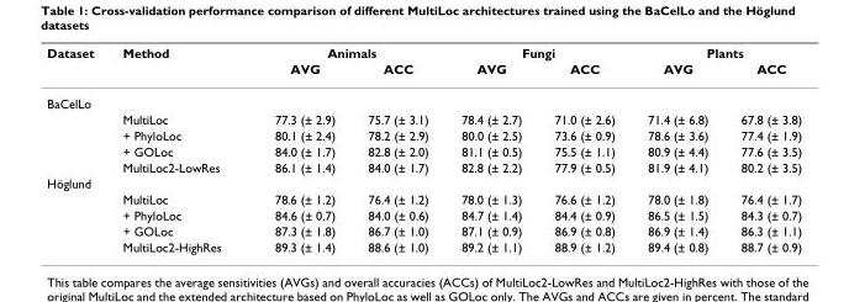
<table><thead><tr><td rowspan="2">Dataset</td><td rowspan="2">Method</td><td colspan="2">Animals</td><td colspan="2">Fungi</td><td colspan="2">Plants</td></tr><tr><td>AVG</td><td>ACC</td><td>AVG</td><td>ACC</td><td>AVG</td><td>ACC</td></tr></thead><tbody><tr><td colspan="8">BaCelLo</td></tr><tr><td></td><td>MultiLoc</td><td>77.3 (± 2.9)</td><td>75.7 (± 3.1)</td><td>78.4 (± 2.7)</td><td>71.0 (± 2.6)</td><td>71.4 (± 6.8)</td><td>67.8 (± 3.8)</td></tr><tr><td></td><td>+ PhyloLoc</td><td>80.1 (± 2.4)</td><td>78.2 (± 2.9)</td><td>80.0 (± 2.5)</td><td>73.6 (± 0.9)</td><td>78.6 (± 3.6)</td><td>77.4 (± 1.9)</td></tr><tr><td></td><td>+ GOLoc</td><td>84.0 (± 1.7)</td><td>82.8 (± 2.0)</td><td>81.1 (± 0.5)</td><td>75.5 (± 1.1)</td><td>80.9 (± 4.4)</td><td>77.6 (± 3.5)</td></tr><tr><td></td><td>MultiLoc2-LowRes</td><td>86.1 (± 1.4)</td><td>84.0 (± 1.7)</td><td>82.8 (± 2.2)</td><td>77.9 (± 0.5)</td><td>81.9 (± 4.1)</td><td>80.2 (± 3.5)</td></tr><tr><td colspan="8">Höglund</td></tr><tr><td></td><td>MultiLoc</td><td>78.6 (± 1.2)</td><td>76.4 (± 1.2)</td><td>78.0 (± 1.3)</td><td>76.6 (± 1.2)</td><td>78.0 (± 1.8)</td><td>76.4 (± 1.7)</td></tr><tr><td></td><td>+ PhyloLoc</td><td>84.6 (± 0.7)</td><td>84.0 (± 0.6)</td><td>84.7 (± 1.4)</td><td>84.4 (± 0.9)</td><td>86.5 (± 1.5)</td><td>84.3 (± 0.7)</td></tr><tr><td></td><td>+ GOLoc</td><td>87.3 (± 1.8)</td><td>86.7 (± 1.0)</td><td>87.1 (± 0.9)</td><td>86.9 (± 0.8)</td><td>86.9 (± 1.4)</td><td>86.3 (± 1.1)</td></tr><tr><td></td><td>MultiLoc2-HighRes</td><td>89.3 (± 1.4)</td><td>88.6 (± 1.0)</td><td>89.2 (± 1.1)</td><td>88.9 (± 1.2)</td><td>89.4 (± 0.8)</td><td>88.7 (± 0.9)</td></tr></tbody></table>